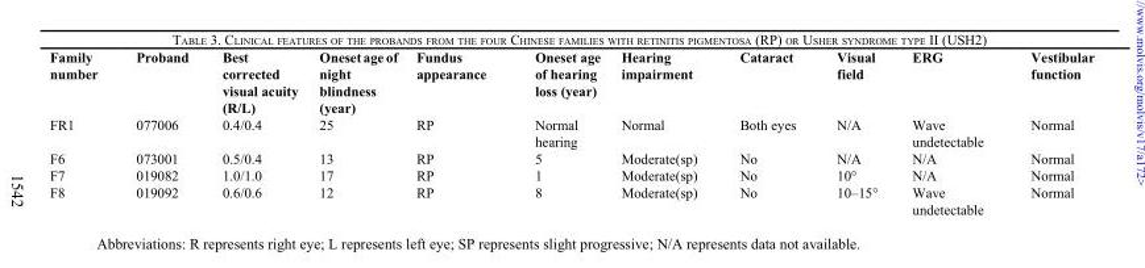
<table><thead><tr><td>Family number</td><td>Proband</td><td>Best corrected visual acuity (R/L)</td><td>Oneset age of night blindness (year)</td><td>Fundus appearance</td><td>Oneset age of hearing loss (year)</td><td>Hearing impairment</td><td>Cataract</td><td>Visual field</td><td>ERG</td><td>Vestibular function</td></tr></thead><tbody><tr><td>FR1</td><td>077006</td><td>0.4/0.4</td><td>25</td><td>RP</td><td>Normal hearing</td><td>Normal</td><td>Both eyes</td><td>N/A</td><td>Wave undetectable</td><td>Normal</td></tr><tr><td>F6</td><td>073001</td><td>0.5/0.4</td><td>13</td><td>RP</td><td>5</td><td>Moderate(sp)</td><td>No</td><td>N/A</td><td>N/A</td><td>Normal</td></tr><tr><td>F7</td><td>019082</td><td>1.0/1.0</td><td>17</td><td>RP</td><td>1</td><td>Moderate(sp)</td><td>No</td><td>10°</td><td>N/A</td><td>Normal</td></tr><tr><td>F8</td><td>019092</td><td>0.6/0.6</td><td>12</td><td>RP</td><td>8</td><td>Moderate(sp)</td><td>No</td><td>10–15°</td><td>Wave undetectable</td><td>Normal</td></tr></tbody></table>